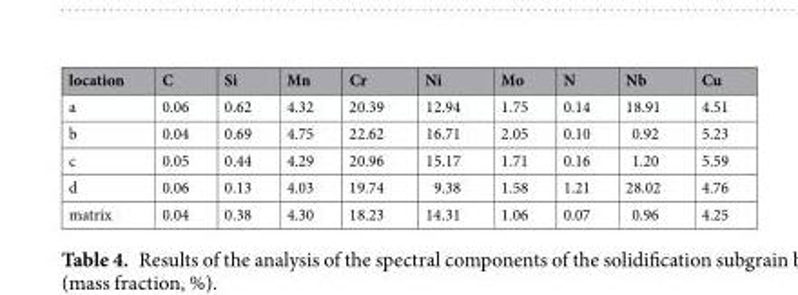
<table><thead><tr><td>location</td><td>C</td><td>Si</td><td>Mn</td><td>Cr</td><td>Ni</td><td>Mo</td><td>N</td><td>Nb</td><td>Cu</td></tr></thead><tbody><tr><td>a</td><td>0.06</td><td>0.62</td><td>4.32</td><td>20.39</td><td>12.94</td><td>1.75</td><td>0.14</td><td>18.91</td><td>4.51</td></tr><tr><td>b</td><td>0.04</td><td>0.69</td><td>4.75</td><td>22.62</td><td>16.71</td><td>2.05</td><td>0.10</td><td>0.92</td><td>5.23</td></tr><tr><td>c</td><td>0.05</td><td>0.44</td><td>4.29</td><td>20.96</td><td>15.17</td><td>1.71</td><td>0.16</td><td>1.20</td><td>5.59</td></tr><tr><td>d</td><td>0.06</td><td>0.13</td><td>4.03</td><td>19.74</td><td>9.38</td><td>1.58</td><td>1.21</td><td>28.02</td><td>4.76</td></tr><tr><td>matrix</td><td>0.04</td><td>0.38</td><td>4.30</td><td>18.23</td><td>14.31</td><td>1.06</td><td>0.07</td><td>0.96</td><td>4.25</td></tr></tbody></table>